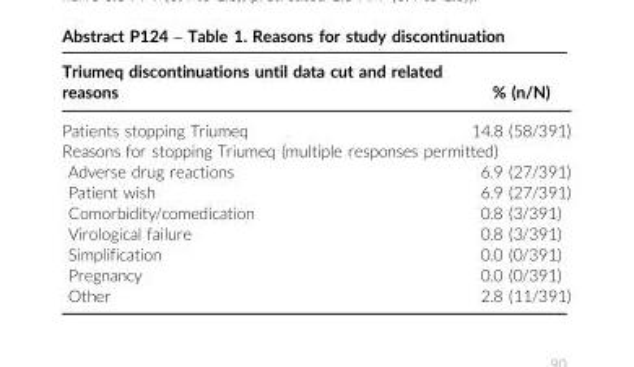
<table><thead><tr><td>Triumeq discontinuations until data cut and related reasons</td><td>% (n/N)</td></tr></thead><tbody><tr><td>Patients stopping Triumeq</td><td>14.8 (58/391)</td></tr><tr><td colspan="2">Reasons for stopping Triumeq (multiple responses permitted)</td></tr><tr><td>Adverse drug reactions</td><td>6.9 (27/391)</td></tr><tr><td>Patient wish</td><td>6.9 (27/391)</td></tr><tr><td>Comorbidity/comedication</td><td>0.8 (3/391)</td></tr><tr><td>Virological failure</td><td>0.8 (3/391)</td></tr><tr><td>Simplification</td><td>0.0 (0/391)</td></tr><tr><td>Pregnancy</td><td>0.0 (0/391)</td></tr><tr><td>Other</td><td>2.8 (11/391)</td></tr></tbody></table>